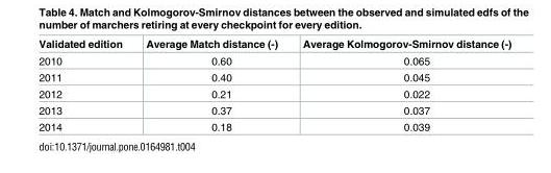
<table><thead><tr><td>Validated edition</td><td>Average Match distance (-)</td><td>Average Kolmogorov-Smirnov distance (-)</td></tr></thead><tbody><tr><td>2010</td><td>0.60</td><td>0.065</td></tr><tr><td>2011</td><td>0.40</td><td>0.045</td></tr><tr><td>2012</td><td>0.21</td><td>0.022</td></tr><tr><td>2013</td><td>0.37</td><td>0.037</td></tr><tr><td>2014</td><td>0.18</td><td>0.039</td></tr></tbody></table>